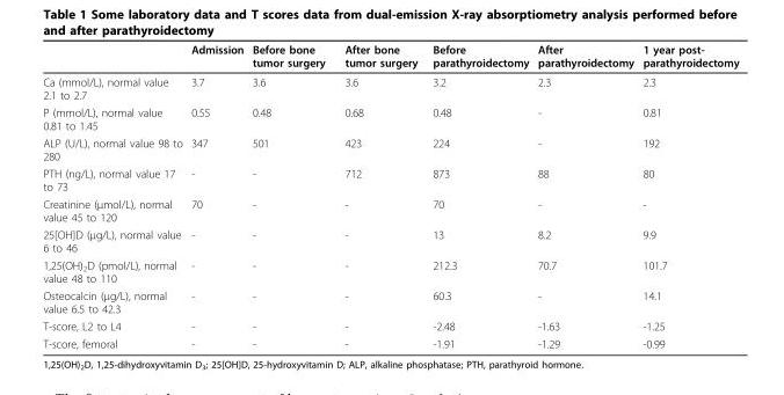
<table><thead><tr><td></td><td>Admission</td><td>Before bone tumor surgery</td><td>After bone tumor surgery</td><td>Before parathyroidectomy</td><td>After parathyroidectomy</td><td>1 year post- parathyroidectomy</td></tr></thead><tbody><tr><td>Ca (mmol/L), normal value 2.1 to 2.7</td><td>3.7</td><td>3.6</td><td>3.6</td><td>3.2</td><td>2.3</td><td>2.3</td></tr><tr><td>P (mmol/L), normal value 0.81 to 1.45</td><td>0.55</td><td>0.48</td><td>0.68</td><td>0.48</td><td>-</td><td>0.81</td></tr><tr><td>ALP (U/L), normal value 98 to 280</td><td>347</td><td>501</td><td>423</td><td>224</td><td>-</td><td>192</td></tr><tr><td>PTH (ng/L), normal value 17 to 73</td><td>-</td><td>-</td><td>712</td><td>873</td><td>88</td><td>80</td></tr><tr><td>Creatinine (μmol/L), normal value 45 to 120</td><td>70</td><td>-</td><td>-</td><td>70</td><td>-</td><td>-</td></tr><tr><td>25[OH]D (μg/L), normal value 6 to 46</td><td>-</td><td>-</td><td>-</td><td>13</td><td>8.2</td><td>9.9</td></tr><tr><td>1,25(OH)<sub>2</sub>D (pmol/L), normal value 48 to 110</td><td>-</td><td>-</td><td>-</td><td>212.3</td><td>70.7</td><td>101.7</td></tr><tr><td>Osteocalcin (μg/L), normal value 6.5 to 42.3</td><td>-</td><td>-</td><td>-</td><td>60.3</td><td>-</td><td>14.1</td></tr><tr><td>T-score, L2 to L4</td><td>-</td><td>-</td><td>-</td><td>-2.48</td><td>-1.63</td><td>-1.25</td></tr><tr><td>T-score, femoral</td><td>-</td><td>-</td><td>-</td><td>-1.91</td><td>-1.29</td><td>-0.99</td></tr></tbody></table>